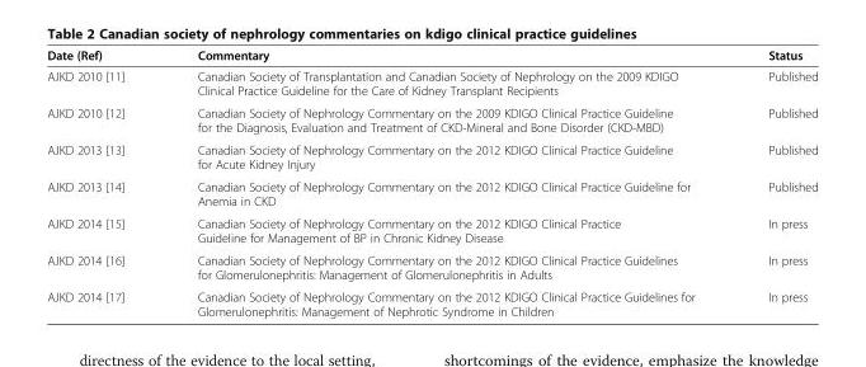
<table><thead><tr><td>Date (Ref)</td><td>Commentary</td><td>Status</td></tr></thead><tbody><tr><td>AJKD 2010 [11]</td><td>Canadian Society of Transplantation and Canadian Society of Nephrology on the 2009 KDIGO Clinical Practice Guideline for the Care of Kidney Transplant Recipients</td><td>Published</td></tr><tr><td>AJKD 2010 [12]</td><td>Canadian Society of Nephrology Commentary on the 2009 KDIGO Clinical Practice Guideline for the Diagnosis, Evaluation and Treatment of CKD-Mineral and Bone Disorder (CKD-MBD)</td><td>Published</td></tr><tr><td>AJKD 2013 [13]</td><td>Canadian Society of Nephrology Commentary on the 2012 KDIGO Clinical Practice Guideline for Acute Kidney Injury</td><td>Published</td></tr><tr><td>AJKD 2013 [14]</td><td>Canadian Society of Nephrology Commentary on the 2012 KDIGO Clinical Practice Guideline for Anemia in CKD</td><td>Published</td></tr><tr><td>AJKD 2014 [15]</td><td>Canadian Society of Nephrology Commentary on the 2012 KDIGO Clinical Practice Guideline for Management of BP in Chronic Kidney Disease</td><td>In press</td></tr><tr><td>AJKD 2014 [16]</td><td>Canadian Society of Nephrology Commentary on the 2012 KDIGO Clinical Practice Guidelines for Glomerulonephritis: Management of Glomerulonephritis in Adults</td><td>In press</td></tr><tr><td>AJKD 2014 [17]</td><td>Canadian Society of Nephrology Commentary on the 2012 KDIGO Clinical Practice Guidelines for Glomerulonephritis: Management of Nephrotic Syndrome in Children</td><td>In press</td></tr></tbody></table>